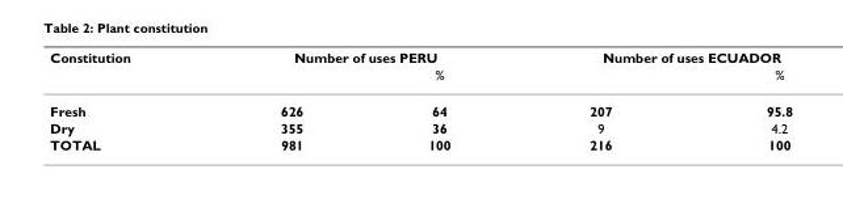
<table><thead><tr><td rowspan="2">Constitution</td><td colspan="2">Number of uses PERU</td><td colspan="2">Number of uses ECUADOR</td></tr><tr><td></td><td>%</td><td></td><td>%</td></tr></thead><tbody><tr><td>Fresh</td><td>626</td><td>64</td><td>207</td><td>95.8</td></tr><tr><td>Dry</td><td>355</td><td>36</td><td>9</td><td>4.2</td></tr><tr><td>TOTAL</td><td>981</td><td>100</td><td>216</td><td>100</td></tr></tbody></table>